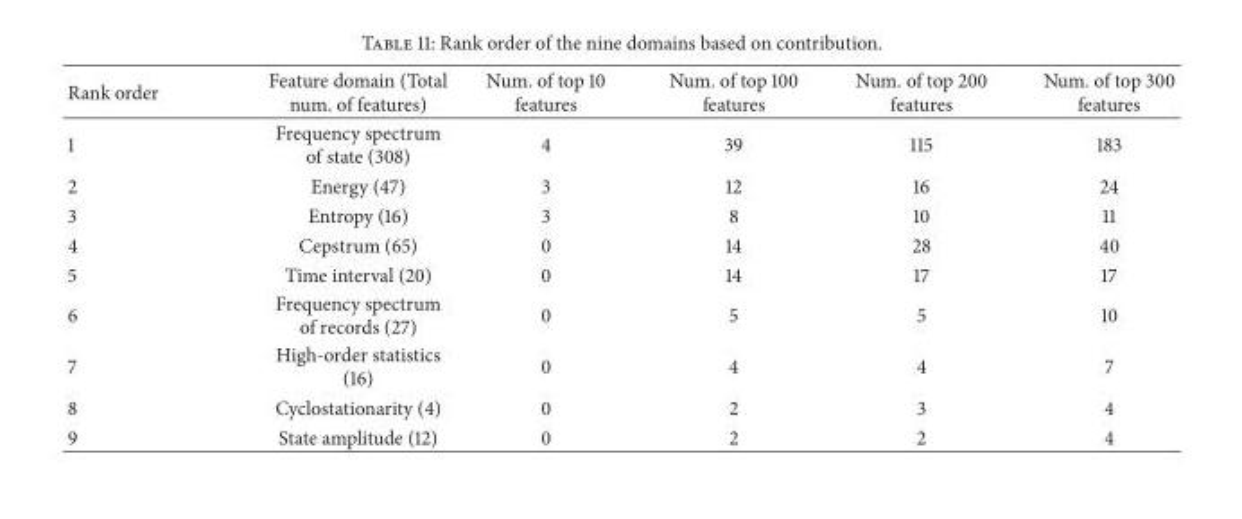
<table><thead><tr><td>Rank order</td><td>Feature domain (Total num. of features)</td><td>Num. of top 10 features</td><td>Num. of top 100 features</td><td>Num. of top 200 features</td><td>Num. of top 300 features</td></tr></thead><tbody><tr><td>1</td><td>Frequency spectrum of state (308)</td><td>4</td><td>39</td><td>115</td><td>183</td></tr><tr><td>2</td><td>Energy (47)</td><td>3</td><td>12</td><td>16</td><td>24</td></tr><tr><td>3</td><td>Entropy (16)</td><td>3</td><td>8</td><td>10</td><td>11</td></tr><tr><td>4</td><td>Cepstrum (65)</td><td>0</td><td>14</td><td>28</td><td>40</td></tr><tr><td>5</td><td>Time interval (20)</td><td>0</td><td>14</td><td>17</td><td>17</td></tr><tr><td>6</td><td>Frequency spectrum of records (27)</td><td>0</td><td>5</td><td>5</td><td>10</td></tr><tr><td>7</td><td>High-order statistics (16)</td><td>0</td><td>4</td><td>4</td><td>7</td></tr><tr><td>8</td><td>Cyclostationarity (4)</td><td>0</td><td>2</td><td>3</td><td>4</td></tr><tr><td>9</td><td>State amplitude (12)</td><td>0</td><td>2</td><td>2</td><td>4</td></tr></tbody></table>